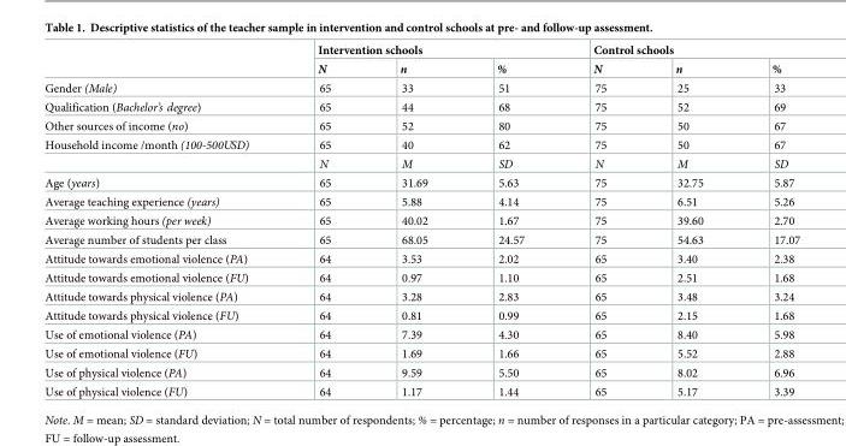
<table><thead><tr><td rowspan="2"></td><td colspan="3">Intervention schools</td><td colspan="3">Control schools</td></tr><tr><td>N</td><td>n</td><td>%</td><td>N</td><td>n</td><td>%</td></tr></thead><tbody><tr><td>Gender (Male)</td><td>65</td><td>33</td><td>51</td><td>75</td><td>25</td><td>33</td></tr><tr><td>Qualification (Bachelor’s degree)</td><td>65</td><td>44</td><td>68</td><td>75</td><td>52</td><td>69</td></tr><tr><td>Other sources of income (no)</td><td>65</td><td>52</td><td>80</td><td>75</td><td>50</td><td>67</td></tr><tr><td rowspan="2">Household income /month (100-500USD)</td><td>65</td><td>40</td><td>62</td><td>75</td><td>50</td><td>67</td></tr><tr><td>N</td><td>M</td><td>SD</td><td>N</td><td>M</td><td>SD</td></tr><tr><td>Age (years)</td><td>65</td><td>31.69</td><td>5.63</td><td>75</td><td>32.75</td><td>5.87</td></tr><tr><td>Average teaching experience (years)</td><td>65</td><td>5.88</td><td>4.14</td><td>75</td><td>6.51</td><td>5.26</td></tr><tr><td>Average working hours (per week)</td><td>65</td><td>40.02</td><td>1.67</td><td>75</td><td>39.60</td><td>2.70</td></tr><tr><td>Average number of students per class</td><td>65</td><td>68.05</td><td>24.57</td><td>75</td><td>54.63</td><td>17.07</td></tr><tr><td>Attitude towards emotional violence (PA)</td><td>64</td><td>3.53</td><td>2.02</td><td>65</td><td>3.40</td><td>2.38</td></tr><tr><td>Attitude towards emotional violence (FU)</td><td>64</td><td>0.97</td><td>1.10</td><td>65</td><td>2.51</td><td>1.68</td></tr><tr><td>Attitude towards physical violence (PA)</td><td>64</td><td>3.28</td><td>2.83</td><td>65</td><td>3.48</td><td>3.24</td></tr><tr><td>Attitude towards physical violence (FU)</td><td>64</td><td>0.81</td><td>0.99</td><td>65</td><td>2.15</td><td>1.68</td></tr><tr><td>Use of emotional violence (PA)</td><td>64</td><td>7.39</td><td>4.30</td><td>65</td><td>8.40</td><td>5.98</td></tr><tr><td>Use of emotional violence (FU)</td><td>64</td><td>1.69</td><td>1.66</td><td>65</td><td>5.52</td><td>2.88</td></tr><tr><td>Use of physical violence (PA)</td><td>64</td><td>9.59</td><td>5.50</td><td>65</td><td>8.02</td><td>6.96</td></tr><tr><td>Use of physical violence (FU)</td><td>64</td><td>1.17</td><td>1.44</td><td>65</td><td>5.17</td><td>3.39</td></tr></tbody></table>